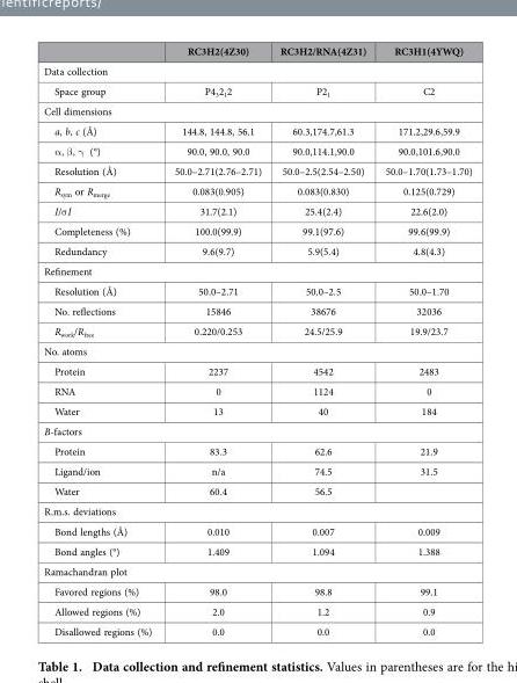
<table><thead><tr><td></td><td>RC3H2(4Z30)</td><td>RC3H2/RNA(4Z31)</td><td>RC3H1(4YWQ)</td></tr></thead><tbody><tr><td colspan="4">Data collection</td></tr><tr><td>Space group</td><td>P4<sub>3</sub>2<sub>1</sub>2</td><td>P2<sub>1</sub></td><td>C2</td></tr><tr><td colspan="4">Cell dimensions</td></tr><tr><td>a, b, c (Å)</td><td>144.8, 144.8, 56.1</td><td>60.3,174.7,61.3</td><td>171.2,29.6,59.9</td></tr><tr><td>α , β , γ (°)</td><td>90.0, 90.0, 90.0</td><td>90.0,114.1,90.0</td><td>90.0,101.6,90.0</td></tr><tr><td>Resolution (Å)</td><td>50.0–2.71(2.76–2.71)</td><td>50.0–2.5(2.54–2.50)</td><td>50.0–1.70(1.73–1.70)</td></tr><tr><td>R<sub>sym</sub> or R<sub>merge</sub></td><td>0.083(0.905)</td><td>0.083(0.830)</td><td>0.125(0.729)</td></tr><tr><td>I/σ I</td><td>31.7(2.1)</td><td>25.4(2.4)</td><td>22.6(2.0)</td></tr><tr><td>Completeness (%)</td><td>100.0(99.9)</td><td>99.1(97.6)</td><td>99.6(99.9)</td></tr><tr><td>Redundancy</td><td>9.6(9.7)</td><td>5.9(5.4)</td><td>4.8(4.3)</td></tr><tr><td colspan="4">Refinement</td></tr><tr><td>Resolution (Å)</td><td>50.0–2.71</td><td>50.0–2.5</td><td>50.0–1.70</td></tr><tr><td>No. reflections</td><td>15846</td><td>38676</td><td>32036</td></tr><tr><td>R<sub>work</sub>/R<sub>free</sub></td><td>0.220/0.253</td><td>24.5/25.9</td><td>19.9/23.7</td></tr><tr><td colspan="4">No. atoms</td></tr><tr><td>Protein</td><td>2237</td><td>4542</td><td>2483</td></tr><tr><td>RNA</td><td>0</td><td>1124</td><td>0</td></tr><tr><td>Water</td><td>13</td><td>40</td><td>184</td></tr><tr><td colspan="4">B-factors</td></tr><tr><td>Protein</td><td>83.3</td><td>62.6</td><td>21.9</td></tr><tr><td>Ligand/ion</td><td>n/a</td><td>74.5</td><td>31.5</td></tr><tr><td>Water</td><td>60.4</td><td>56.5</td><td></td></tr><tr><td colspan="4">R.m.s. deviations</td></tr><tr><td>Bond lengths (Å)</td><td>0.010</td><td>0.007</td><td>0.009</td></tr><tr><td>Bond angles (°)</td><td>1.409</td><td>1.094</td><td>1.388</td></tr><tr><td colspan="4">Ramachandran plot</td></tr><tr><td>Favored regions (%)</td><td>98.0</td><td>98.8</td><td>99.1</td></tr><tr><td>Allowed regions (%)</td><td>2.0</td><td>1.2</td><td>0.9</td></tr><tr><td>Disallowed regions (%)</td><td>0.0</td><td>0.0</td><td>0.0</td></tr></tbody></table>